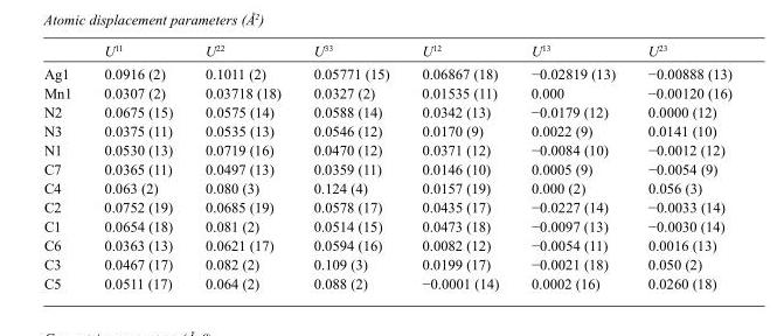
<table><thead><tr><td></td><td>U<sup>11</sup></td><td>U<sup>22</sup></td><td>U<sup>33</sup></td><td>U<sup>12</sup></td><td>U<sup>13</sup></td><td>U<sup>23</sup></td></tr></thead><tbody><tr><td>Ag1</td><td>0.0916 (2)</td><td>0.1011 (2)</td><td>0.05771 (15)</td><td>0.06867 (18)</td><td>−0.02819 (13)</td><td>−0.00888 (13)</td></tr><tr><td>Mn1</td><td>0.0307 (2)</td><td>0.03718 (18)</td><td>0.0327 (2)</td><td>0.01535 (11)</td><td>0.000</td><td>−0.00120 (16)</td></tr><tr><td>N2</td><td>0.0675 (15)</td><td>0.0575 (14)</td><td>0.0588 (14)</td><td>0.0342 (13)</td><td>−0.0179 (12)</td><td>0.0000 (12)</td></tr><tr><td>N3</td><td>0.0375 (11)</td><td>0.0535 (13)</td><td>0.0546 (12)</td><td>0.0170 (9)</td><td>0.0022 (9)</td><td>0.0141 (10)</td></tr><tr><td>N1</td><td>0.0530 (13)</td><td>0.0719 (16)</td><td>0.0470 (12)</td><td>0.0371 (12)</td><td>−0.0084 (10)</td><td>−0.0012 (12)</td></tr><tr><td>C7</td><td>0.0365 (11)</td><td>0.0497 (13)</td><td>0.0359 (11)</td><td>0.0146 (10)</td><td>0.0005 (9)</td><td>−0.0054 (9)</td></tr><tr><td>C4</td><td>0.063 (2)</td><td>0.080 (3)</td><td>0.124 (4)</td><td>0.0157 (19)</td><td>0.000 (2)</td><td>0.056 (3)</td></tr><tr><td>C2</td><td>0.0752 (19)</td><td>0.0685 (19)</td><td>0.0578 (17)</td><td>0.0435 (17)</td><td>−0.0227 (14)</td><td>−0.0033 (14)</td></tr><tr><td>C1</td><td>0.0654 (18)</td><td>0.081 (2)</td><td>0.0514 (15)</td><td>0.0473 (18)</td><td>−0.0097 (13)</td><td>−0.0030 (14)</td></tr><tr><td>C6</td><td>0.0363 (13)</td><td>0.0621 (17)</td><td>0.0594 (16)</td><td>0.0082 (12)</td><td>−0.0054 (11)</td><td>0.0016 (13)</td></tr><tr><td>C3</td><td>0.0467 (17)</td><td>0.082 (2)</td><td>0.109 (3)</td><td>0.0199 (17)</td><td>−0.0021 (18)</td><td>0.050 (2)</td></tr><tr><td>C5</td><td>0.0511 (17)</td><td>0.064 (2)</td><td>0.088 (2)</td><td>−0.0001 (14)</td><td>0.0002 (16)</td><td>0.0260 (18)</td></tr></tbody></table>